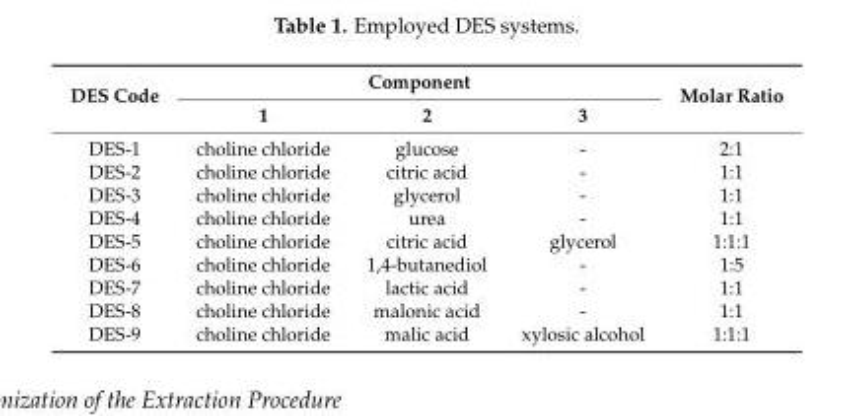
<table><thead><tr><td rowspan="2">DES Code</td><td colspan="3">Component</td><td rowspan="2">Molar Ratio</td></tr><tr><td>1</td><td>2</td><td>3</td></tr></thead><tbody><tr><td>DES-1</td><td>choline chloride</td><td>glucose</td><td>-</td><td>2:1</td></tr><tr><td>DES-2</td><td>choline chloride</td><td>citric acid</td><td>-</td><td>1:1</td></tr><tr><td>DES-3</td><td>choline chloride</td><td>glycerol</td><td>-</td><td>1:1</td></tr><tr><td>DES-4</td><td>choline chloride</td><td>urea</td><td>-</td><td>1:1</td></tr><tr><td>DES-5</td><td>choline chloride</td><td>citric acid</td><td>glycerol</td><td>1:1:1</td></tr><tr><td>DES-6</td><td>choline chloride</td><td>1,4-butanediol</td><td>-</td><td>1:5</td></tr><tr><td>DES-7</td><td>choline chloride</td><td>lactic acid</td><td>-</td><td>1:1</td></tr><tr><td>DES-8</td><td>choline chloride</td><td>malonic acid</td><td>-</td><td>1:1</td></tr><tr><td>DES-9</td><td>choline chloride</td><td>malic acid</td><td>xylosic alcohol</td><td>1:1:1</td></tr></tbody></table>